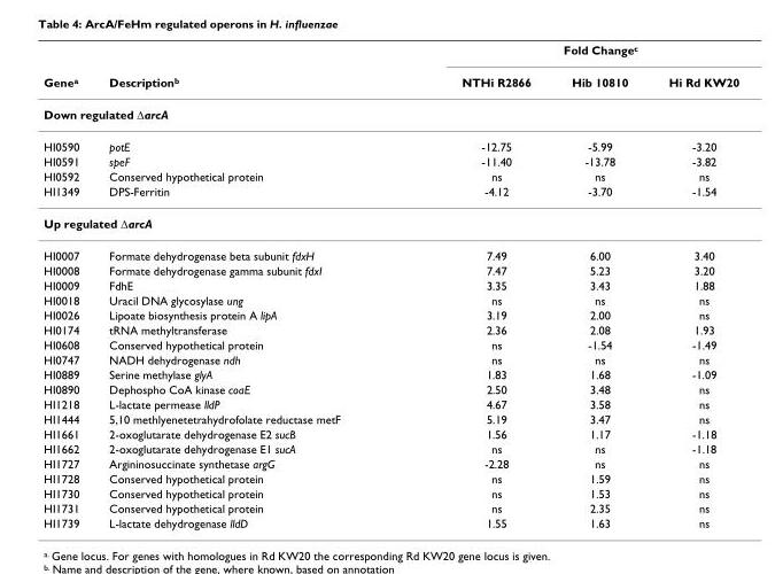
<table><thead><tr><td rowspan="2">Gene<sup>a</sup></td><td rowspan="2">Description<sup>b</sup></td><td colspan="3">Fold Change<sup>c</sup></td></tr><tr><td>NTHi R2866</td><td>Hib 10810</td><td>Hi Rd KW20</td></tr></thead><tbody><tr><td colspan="5">Down regulated ΔarcA</td></tr><tr><td>HI0590</td><td>potE</td><td>-12.75</td><td>-5.99</td><td>-3.20</td></tr><tr><td>HI0591</td><td>speF</td><td>-11.40</td><td>-13.78</td><td>-3.82</td></tr><tr><td>HI0592</td><td>Conserved hypothetical protein</td><td>ns</td><td>ns</td><td>ns</td></tr><tr><td>HI1349</td><td>DPS-Ferritin</td><td>-4.12</td><td>-3.70</td><td>-1.54</td></tr><tr><td colspan="5">Up regulated ΔarcA</td></tr><tr><td>HI0007</td><td>Formate dehydrogenase beta subunit fdxH</td><td>7.49</td><td>6.00</td><td>3.40</td></tr><tr><td>HI0008</td><td>Formate dehydrogenase gamma subunit fdxI</td><td>7.47</td><td>5.23</td><td>3.20</td></tr><tr><td>HI0009</td><td>FdhE</td><td>3.35</td><td>3.43</td><td>1.88</td></tr><tr><td>HI0018</td><td>Uracil DNA glycosylase ung</td><td>ns</td><td>ns</td><td>ns</td></tr><tr><td>HI0026</td><td>Lipoate biosynthesis protein A lipA</td><td>3.19</td><td>2.00</td><td>ns</td></tr><tr><td>HI0174</td><td>tRNA methyltransferase</td><td>2.36</td><td>2.08</td><td>1.93</td></tr><tr><td>HI0608</td><td>Conserved hypothetical protein</td><td>ns</td><td>-1.54</td><td>-1.49</td></tr><tr><td>HI0747</td><td>NADH dehydrogenase ndh</td><td>ns</td><td>ns</td><td>ns</td></tr><tr><td>HI0889</td><td>Serine methylase glyA</td><td>1.83</td><td>1.68</td><td>-1.09</td></tr><tr><td>HI0890</td><td>Dephospho CoA kinase coaE</td><td>2.50</td><td>3.48</td><td>ns</td></tr><tr><td>HI1218</td><td>L-lactate permease lldP</td><td>4.67</td><td>3.58</td><td>ns</td></tr><tr><td>HI1444</td><td>5,10 methlyenetetrahydrofolate reductase metF</td><td>5.19</td><td>3.47</td><td>ns</td></tr><tr><td>HI1661</td><td>2-oxoglutarate dehydrogenase E2 sucB</td><td>1.56</td><td>1.17</td><td>-1.18</td></tr><tr><td>HI1662</td><td>2-oxoglutarate dehydrogenase E1 sucA</td><td>ns</td><td>ns</td><td>-1.18</td></tr><tr><td>HI1727</td><td>Argininosuccinate synthetase argG</td><td>-2.28</td><td>ns</td><td>ns</td></tr><tr><td>HI1728</td><td>Conserved hypothetical protein</td><td>ns</td><td>1.59</td><td>ns</td></tr><tr><td>HI1730</td><td>Conserved hypothetical protein</td><td>ns</td><td>1.53</td><td>ns</td></tr><tr><td>HI1731</td><td>Conserved hypothetical protein</td><td>ns</td><td>2.35</td><td>ns</td></tr><tr><td>HI1739</td><td>L-lactate dehydrogenase lldD</td><td>1.55</td><td>1.63</td><td>ns</td></tr></tbody></table>